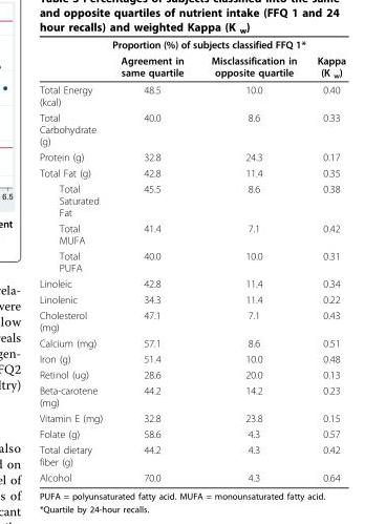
<table><thead><tr><td rowspan="2"></td><td colspan="2">Proportion (%) of subjects classified FFQ 1*</td><td rowspan="2">Kappa (K <sub>w</sub>)</td></tr><tr><td>Agreement in same quartile</td><td>Misclassification in opposite quartile</td></tr></thead><tbody><tr><td>Total Energy (kcal)</td><td>48.5</td><td>10.0</td><td>0.40</td></tr><tr><td>Total Carbohydrate (g)</td><td>40.0</td><td>8.6</td><td>0.33</td></tr><tr><td>Protein (g)</td><td>32.8</td><td>24.3</td><td>0.17</td></tr><tr><td>Total Fat (g)</td><td>42.8</td><td>11.4</td><td>0.35</td></tr><tr><td>Total Saturated Fat</td><td>45.5</td><td>8.6</td><td>0.38</td></tr><tr><td>Total MUFA</td><td>41.4</td><td>7.1</td><td>0.42</td></tr><tr><td>Total PUFA</td><td>40.0</td><td>10.0</td><td>0.31</td></tr><tr><td>Linoleic</td><td>42.8</td><td>11.4</td><td>0.34</td></tr><tr><td>Linolenic</td><td>34.3</td><td>11.4</td><td>0.22</td></tr><tr><td>Cholesterol (mg)</td><td>47.1</td><td>7.1</td><td>0.43</td></tr><tr><td>Calcium (mg)</td><td>57.1</td><td>8.6</td><td>0.51</td></tr><tr><td>Iron (g)</td><td>51.4</td><td>10.0</td><td>0.48</td></tr><tr><td>Retinol (ug)</td><td>28.6</td><td>20.0</td><td>0.13</td></tr><tr><td>Beta-carotene (mg)</td><td>44.2</td><td>14.2</td><td>0.23</td></tr><tr><td>Vitamin E (mg)</td><td>32.8</td><td>23.8</td><td>0.15</td></tr><tr><td>Folate (g)</td><td>58.6</td><td>4.3</td><td>0.57</td></tr><tr><td>Total dietary fiber (g)</td><td>44.2</td><td>4.3</td><td>0.42</td></tr><tr><td>Alcohol</td><td>70.0</td><td>4.3</td><td>0.64</td></tr></tbody></table>